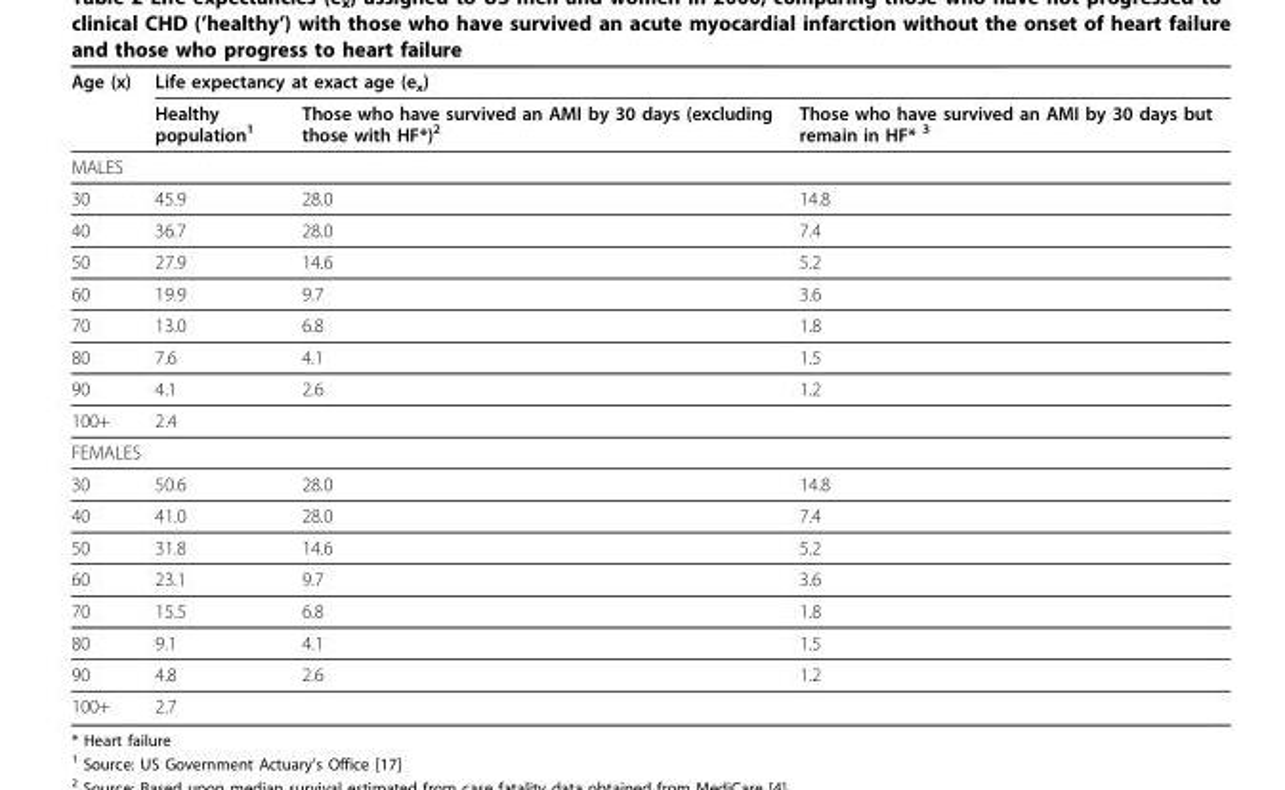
<table><thead><tr><td rowspan="2">Age (x)</td><td colspan="3">Life expectancy at exact age (e<sub>x</sub>)</td></tr><tr><td>Healthy population<sup>1</sup></td><td>Those who have survived an AMI by 30 days (excluding those with HF*)<sup>2</sup></td><td>Those who have survived an AMI by 30 days but remain in HF* <sup>3</sup></td></tr></thead><tbody><tr><td colspan="4">MALES</td></tr><tr><td>30</td><td>45.9</td><td>28.0</td><td>14.8</td></tr><tr><td>40</td><td>36.7</td><td>28.0</td><td>7.4</td></tr><tr><td>50</td><td>27.9</td><td>14.6</td><td>5.2</td></tr><tr><td>60</td><td>19.9</td><td>9.7</td><td>3.6</td></tr><tr><td>70</td><td>13.0</td><td>6.8</td><td>1.8</td></tr><tr><td>80</td><td>7.6</td><td>4.1</td><td>1.5</td></tr><tr><td>90</td><td>4.1</td><td>2.6</td><td>1.2</td></tr><tr><td>100+</td><td>2.4</td><td></td><td></td></tr><tr><td colspan="4">FEMALES</td></tr><tr><td>30</td><td>50.6</td><td>28.0</td><td>14.8</td></tr><tr><td>40</td><td>41.0</td><td>28.0</td><td>7.4</td></tr><tr><td>50</td><td>31.8</td><td>14.6</td><td>5.2</td></tr><tr><td>60</td><td>23.1</td><td>9.7</td><td>3.6</td></tr><tr><td>70</td><td>15.5</td><td>6.8</td><td>1.8</td></tr><tr><td>80</td><td>9.1</td><td>4.1</td><td>1.5</td></tr><tr><td>90</td><td>4.8</td><td>2.6</td><td>1.2</td></tr><tr><td>100+</td><td>2.7</td><td></td><td></td></tr></tbody></table>